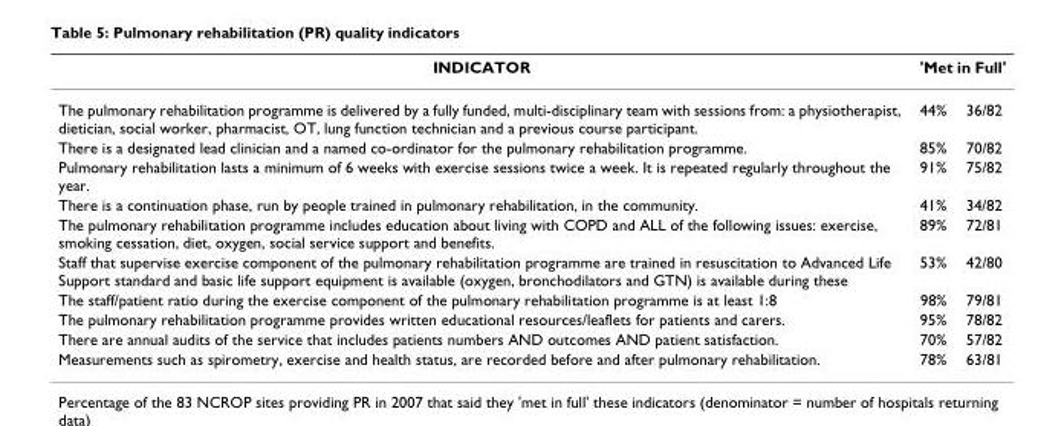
<table><thead><tr><td rowspan="2">INDICATOR The pulmonary rehabilitation programme is delivered by a fully funded, multi-disciplinary team with sessions from: a physiotherapist, dietician, social worker, pharmacist, OT, lung function technician and a previous course participant.</td><td colspan="2">&#x27;Met in Full&#x27;</td></tr><tr><td>44%</td><td>36/82</td></tr></thead><tbody><tr><td>There is a designated lead clinician and a named co-ordinator for the pulmonary rehabilitation programme.</td><td>85%</td><td>70/82</td></tr><tr><td>Pulmonary rehabilitation lasts a minimum of 6 weeks with exercise sessions twice a week. It is repeated regularly throughout the year.</td><td>91%</td><td>75/82</td></tr><tr><td>There is a continuation phase, run by people trained in pulmonary rehabilitation, in the community.</td><td>41%</td><td>34/82</td></tr><tr><td>The pulmonary rehabilitation programme includes education about living with COPD and ALL of the following issues: exercise, smoking cessation, diet, oxygen, social service support and benefits.</td><td>89%</td><td>72/81</td></tr><tr><td>Staff that supervise exercise component of the pulmonary rehabilitation programme are trained in resuscitation to Advanced Life Support standard and basic life support equipment is available (oxygen, bronchodilators and GTN) is available during these</td><td>53%</td><td>42/80</td></tr><tr><td>The staff/patient ratio during the exercise component of the pulmonary rehabilitation programme is at least 1:8</td><td>98%</td><td>79/81</td></tr><tr><td>The pulmonary rehabilitation programme provides written educational resources/leaflets for patients and carers.</td><td>95%</td><td>78/82</td></tr><tr><td>There are annual audits of the service that includes patients numbers AND outcomes AND patient satisfaction.</td><td>70%</td><td>57/82</td></tr><tr><td>Measurements such as spirometry, exercise and health status, are recorded before and after pulmonary rehabilitation.</td><td>78%</td><td>63/81</td></tr></tbody></table>